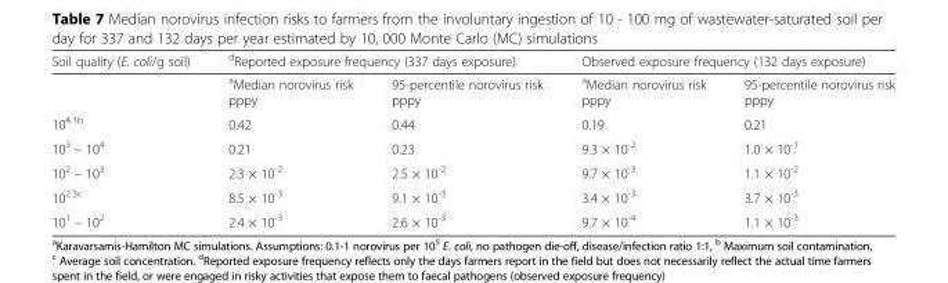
<table><thead><tr><td rowspan="2">Soil quality (E. coli/g soil)</td><td colspan="2"><sup>d</sup>Reported exposure frequency (337 days exposure)</td><td colspan="2">Observed exposure frequency (132 days exposure)</td></tr><tr><td><sup>a</sup>Median norovirus risk pppy</td><td>95-percentile norovirus risk pppy</td><td><sup>a</sup>Median norovirus risk pppy</td><td>95-percentile norovirus risk pppy</td></tr></thead><tbody><tr><td>10<sup>4.1b</sup></td><td>0.42</td><td>0.44</td><td>0.19</td><td>0.21</td></tr><tr><td>10<sup>3</sup> – 10<sup>4</sup></td><td>0.21</td><td>0.23</td><td>9.3 × 10<sup>-2</sup></td><td>1.0 × 10<sup>-1</sup></td></tr><tr><td>10<sup>2</sup> – 10<sup>3</sup></td><td>2.3 × 10<sup>-2</sup></td><td>2.5 × 10<sup>-2</sup></td><td>9.7 × 10<sup>-3</sup></td><td>1.1 × 10<sup>-2</sup></td></tr><tr><td>10<sup>2.3c</sup></td><td>8.5 × 10<sup>-3</sup></td><td>9.1 × 10<sup>-3</sup></td><td>3.4 × 10<sup>-3</sup></td><td>3.7 × 10<sup>-3</sup></td></tr><tr><td>10<sup>1</sup> – 10<sup>2</sup></td><td>2.4 × 10<sup>-3</sup></td><td>2.6 × 10<sup>-3</sup></td><td>9.7 × 10<sup>-4</sup></td><td>1.1 × 10<sup>-3</sup></td></tr></tbody></table>